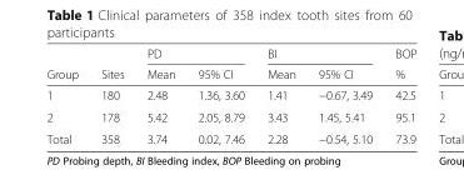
<table><thead><tr><td rowspan="2">Group</td><td rowspan="2">Sites</td><td colspan="2">PD</td><td colspan="2">BI</td><td rowspan="2">BOP %</td></tr><tr><td>Mean</td><td>95% CI</td><td>Mean</td><td>95% CI</td></tr></thead><tbody><tr><td>1</td><td>180</td><td>2.48</td><td>1.36, 3.60</td><td>1.41</td><td>−0.67, 3.49</td><td>42.5</td></tr><tr><td>2</td><td>178</td><td>5.42</td><td>2.05, 8.79</td><td>3.43</td><td>1.45, 5.41</td><td>95.1</td></tr><tr><td>Total</td><td>358</td><td>3.74</td><td>0.02, 7.46</td><td>2.28</td><td>−0.54, 5.10</td><td>73.9</td></tr></tbody></table>